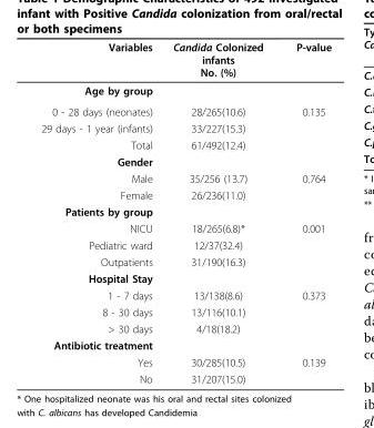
<table><thead><tr><td>Variables</td><td>Candida Colonized infants No. (%)</td><td>P-value</td></tr></thead><tbody><tr><td colspan="3">Age by group</td></tr><tr><td>0 - 28 days (neonates)</td><td>28/265(10.6)</td><td>0.135</td></tr><tr><td>29 days - 1 year (infants)</td><td>33/227(15.3)</td><td></td></tr><tr><td>Total</td><td>61/492(12.4)</td><td></td></tr><tr><td colspan="3">Gender</td></tr><tr><td>Male</td><td>35/256 (13.7)</td><td>0.764</td></tr><tr><td>Female</td><td>26/236(11.0)</td><td></td></tr><tr><td colspan="3">Patients by group</td></tr><tr><td>NICU</td><td>18/265(6.8)*</td><td>0.001</td></tr><tr><td>Pediatric ward</td><td>12/37(32.4)</td><td></td></tr><tr><td>Outpatients</td><td>31/190(16.3)</td><td></td></tr><tr><td colspan="3">Hospital Stay</td></tr><tr><td>1 - 7 days</td><td>13/138(8.6)</td><td>0.373</td></tr><tr><td>8 - 30 days</td><td>13/116(10.1)</td><td></td></tr><tr><td>&gt; 30 days</td><td>4/18(18.2)</td><td></td></tr><tr><td colspan="3">Antibiotic treatment</td></tr><tr><td>Yes</td><td>30/285(10.5)</td><td>0.139</td></tr><tr><td>No</td><td>31/207(15.0)</td><td></td></tr></tbody></table>